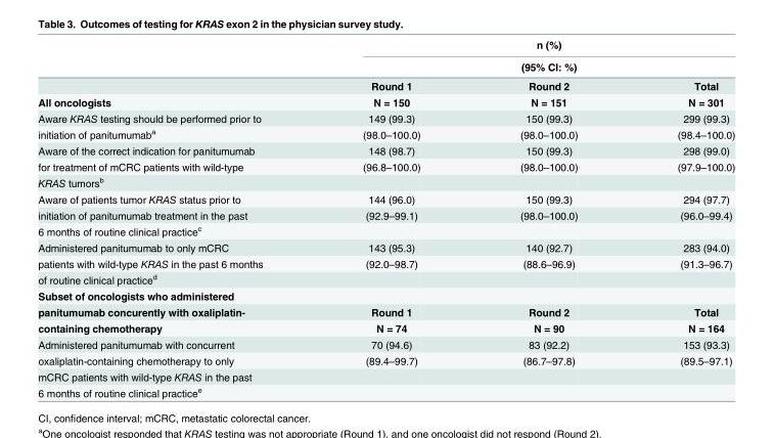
<table><thead><tr><td rowspan="3"></td><td rowspan="2" colspan="3">n (%) (95% CI: %)</td></tr><tr></tr><tr><td>Round 1</td><td>Round 2</td><td>Total</td></tr></thead><tbody><tr><td>All oncologists</td><td>N = 150</td><td>N = 151</td><td>N = 301</td></tr><tr><td>Aware KRAS testing should be performed prior to</td><td>149 (99.3)</td><td>150 (99.3)</td><td>299 (99.3)</td></tr><tr><td>initiation of panitumumab<sup>a</sup></td><td>(98.0–100.0)</td><td>(98.0–100.0)</td><td>(98.4–100.0)</td></tr><tr><td>Aware of the correct indication for panitumumab</td><td>148 (98.7)</td><td>150 (99.3)</td><td>298 (99.0)</td></tr><tr><td>for treatment of mCRC patients with wild-type</td><td>(96.8–100.0)</td><td>(98.0–100.0)</td><td>(97.9–100.0)</td></tr><tr><td colspan="4">KRAS tumors<sup>b</sup></td></tr><tr><td>Aware of patients tumor KRAS status prior to</td><td>144 (96.0)</td><td>150 (99.3)</td><td>294 (97.7)</td></tr><tr><td>initiation of panitumumab treatment in the past</td><td>(92.9–99.1)</td><td>(98.0–100.0)</td><td>(96.0–99.4)</td></tr><tr><td colspan="4">6 months of routine clinical practice<sup>c</sup></td></tr><tr><td>Administered panitumumab to only mCRC</td><td>143 (95.3)</td><td>140 (92.7)</td><td>283 (94.0)</td></tr><tr><td>patients with wild-type KRAS in the past 6 months</td><td>(92.0–98.7)</td><td>(88.6–96.9)</td><td>(91.3–96.7)</td></tr><tr><td colspan="4">of routine clinical practice<sup>d</sup></td></tr><tr><td colspan="4">Subset of oncologists who administered</td></tr><tr><td>panitumumab concurently with oxaliplatin-</td><td>Round 1</td><td>Round 2</td><td>Total</td></tr><tr><td>containing chemotherapy</td><td>N = 74</td><td>N = 90</td><td>N = 164</td></tr><tr><td>Administered panitumumab with concurrent</td><td>70 (94.6)</td><td>83 (92.2)</td><td>153 (93.3)</td></tr><tr><td>oxaliplatin-containing chemotherapy to only</td><td>(89.4–99.7)</td><td>(86.7–97.8)</td><td>(89.5–97.1)</td></tr><tr><td colspan="4">mCRC patients with wild-type KRAS in the past</td></tr><tr><td>6 months of routine clinical practice<sup>e</sup></td><td></td><td></td><td></td></tr></tbody></table>